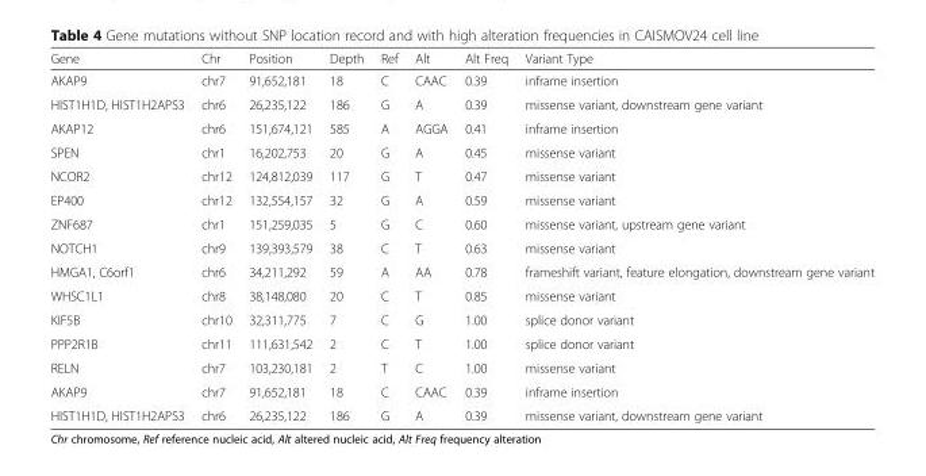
<table><thead><tr><td>Gene</td><td>Chr</td><td>Position</td><td>Depth</td><td>Ref</td><td>Alt</td><td>Alt Freq</td><td>Variant Type</td></tr></thead><tbody><tr><td>AKAP9</td><td>chr7</td><td>91,652,181</td><td>18</td><td>C</td><td>CAAC</td><td>0.39</td><td>inframe insertion</td></tr><tr><td>HIST1H1D, HIST1H2APS3</td><td>chr6</td><td>26,235,122</td><td>186</td><td>G</td><td>A</td><td>0.39</td><td>missense variant, downstream gene variant</td></tr><tr><td>AKAP12</td><td>chr6</td><td>151,674,121</td><td>585</td><td>A</td><td>AGGA</td><td>0.41</td><td>inframe insertion</td></tr><tr><td>SPEN</td><td>chr1</td><td>16,202,753</td><td>20</td><td>G</td><td>A</td><td>0.45</td><td>missense variant</td></tr><tr><td>NCOR2</td><td>chr12</td><td>124,812,039</td><td>117</td><td>G</td><td>T</td><td>0.47</td><td>missense variant</td></tr><tr><td>EP400</td><td>chr12</td><td>132,554,157</td><td>32</td><td>G</td><td>A</td><td>0.59</td><td>missense variant</td></tr><tr><td>ZNF687</td><td>chr1</td><td>151,259,035</td><td>5</td><td>G</td><td>C</td><td>0.60</td><td>missense variant, upstream gene variant</td></tr><tr><td>NOTCH1</td><td>chr9</td><td>139,393,579</td><td>38</td><td>C</td><td>T</td><td>0.63</td><td>missense variant</td></tr><tr><td>HMGA1, C6orf1</td><td>chr6</td><td>34,211,292</td><td>59</td><td>A</td><td>AA</td><td>0.78</td><td>frameshift variant, feature elongation, downstream gene variant</td></tr><tr><td>WHSC1L1</td><td>chr8</td><td>38,148,080</td><td>20</td><td>C</td><td>T</td><td>0.85</td><td>missense variant</td></tr><tr><td>KIF5B</td><td>chr10</td><td>32,311,775</td><td>7</td><td>C</td><td>G</td><td>1.00</td><td>splice donor variant</td></tr><tr><td>PPP2R1B</td><td>chr11</td><td>111,631,542</td><td>2</td><td>C</td><td>T</td><td>1.00</td><td>splice donor variant</td></tr><tr><td>RELN</td><td>chr7</td><td>103,230,181</td><td>2</td><td>T</td><td>C</td><td>1.00</td><td>missense variant</td></tr><tr><td>AKAP9</td><td>chr7</td><td>91,652,181</td><td>18</td><td>C</td><td>CAAC</td><td>0.39</td><td>inframe insertion</td></tr><tr><td>HIST1H1D, HIST1H2APS3</td><td>chr6</td><td>26,235,122</td><td>186</td><td>G</td><td>A</td><td>0.39</td><td>missense variant, downstream gene variant</td></tr></tbody></table>